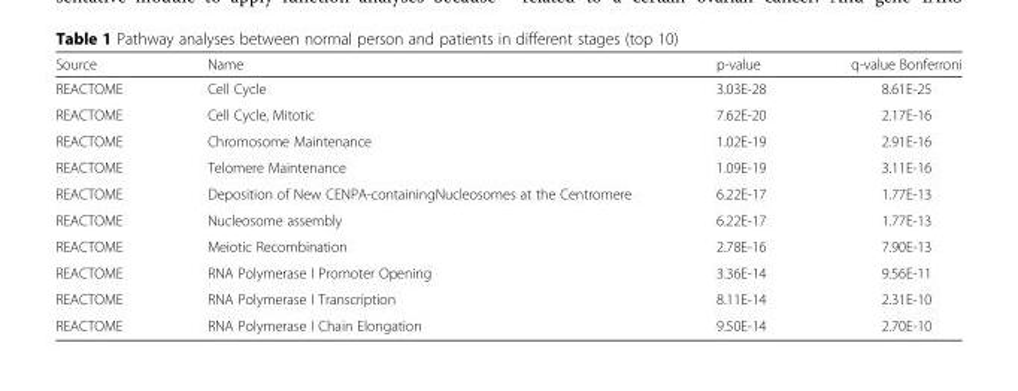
<table><thead><tr><td>Source</td><td>Name</td><td>p-value</td><td>q-value Bonferroni</td></tr></thead><tbody><tr><td>REACTOME</td><td>Cell Cycle</td><td>3.03E-28</td><td>8.61E-25</td></tr><tr><td>REACTOME</td><td>Cell Cycle, Mitotic</td><td>7.62E-20</td><td>2.17E-16</td></tr><tr><td>REACTOME</td><td>Chromosome Maintenance</td><td>1.02E-19</td><td>2.91E-16</td></tr><tr><td>REACTOME</td><td>Telomere Maintenance</td><td>1.09E-19</td><td>3.11E-16</td></tr><tr><td>REACTOME</td><td>Deposition of New CENPA-containingNucleosomes at the Centromere</td><td>6.22E-17</td><td>1.77E-13</td></tr><tr><td>REACTOME</td><td>Nucleosome assembly</td><td>6.22E-17</td><td>1.77E-13</td></tr><tr><td>REACTOME</td><td>Meiotic Recombination</td><td>2.78E-16</td><td>7.90E-13</td></tr><tr><td>REACTOME</td><td>RNA Polymerase I Promoter Opening</td><td>3.36E-14</td><td>9.56E-11</td></tr><tr><td>REACTOME</td><td>RNA Polymerase I Transcription</td><td>8.11E-14</td><td>2.31E-10</td></tr><tr><td>REACTOME</td><td>RNA Polymerase I Chain Elongation</td><td>9.50E-14</td><td>2.70E-10</td></tr></tbody></table>